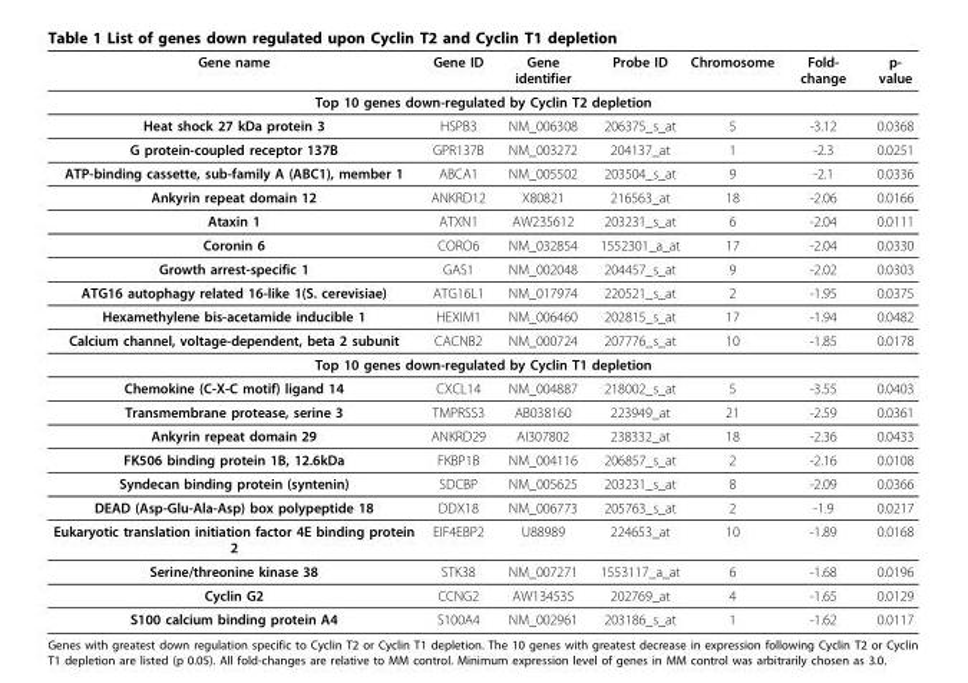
<table><thead><tr><td>Gene name</td><td>Gene ID</td><td>Gene identifier</td><td>Probe ID</td><td>Chromosome</td><td>Fold- change</td><td>p- value</td></tr></thead><tbody><tr><td colspan="7">Top 10 genes down-regulated by Cyclin T2 depletion</td></tr><tr><td>Heat shock 27 kDa protein 3</td><td>HSPB3</td><td>NM_006308</td><td>206375_s_at</td><td>5</td><td>-3.12</td><td>0.0368</td></tr><tr><td>G protein-coupled receptor 137B</td><td>GPR137B</td><td>NM_003272</td><td>204137_at</td><td>1</td><td>-2.3</td><td>0.0251</td></tr><tr><td>ATP-binding cassette, sub-family A (ABC1), member 1</td><td>ABCA1</td><td>NM_005502</td><td>203504_s_at</td><td>9</td><td>-2.1</td><td>0.0336</td></tr><tr><td>Ankyrin repeat domain 12</td><td>ANKRD12</td><td>X80821</td><td>216563_at</td><td>18</td><td>-2.06</td><td>0.0166</td></tr><tr><td>Ataxin 1</td><td>ATXN1</td><td>AW235612</td><td>203231_s_at</td><td>6</td><td>-2.04</td><td>0.0111</td></tr><tr><td>Coronin 6</td><td>CORO6</td><td>NM_032854</td><td>1552301_a_at</td><td>17</td><td>-2.04</td><td>0.0330</td></tr><tr><td>Growth arrest-specific 1</td><td>GAS1</td><td>NM_002048</td><td>204457_s_at</td><td>9</td><td>-2.02</td><td>0.0303</td></tr><tr><td>ATG16 autophagy related 16-like 1(S. cerevisiae)</td><td>ATG16L1</td><td>NM_017974</td><td>220521_s_at</td><td>2</td><td>-1.95</td><td>0.0375</td></tr><tr><td>Hexamethylene bis-acetamide inducible 1</td><td>HEXIM1</td><td>NM_006460</td><td>202815_s_at</td><td>17</td><td>-1.94</td><td>0.0482</td></tr><tr><td>Calcium channel, voltage-dependent, beta 2 subunit</td><td>CACNB2</td><td>NM_000724</td><td>207776_s_at</td><td>10</td><td>-1.85</td><td>0.0178</td></tr><tr><td colspan="7">Top 10 genes down-regulated by Cyclin T1 depletion</td></tr><tr><td>Chemokine (C-X-C motif) ligand 14</td><td>CXCL14</td><td>NM_004887</td><td>218002_s_at</td><td>5</td><td>-3.55</td><td>0.0403</td></tr><tr><td>Transmembrane protease, serine 3</td><td>TMPRSS3</td><td>AB038160</td><td>223949_at</td><td>21</td><td>-2.59</td><td>0.0361</td></tr><tr><td>Ankyrin repeat domain 29</td><td>ANKRD29</td><td>AI307802</td><td>238332_at</td><td>18</td><td>-2.36</td><td>0.0433</td></tr><tr><td>FK506 binding protein 1B, 12.6kDa</td><td>FKBP1B</td><td>NM_004116</td><td>206857_s_at</td><td>2</td><td>-2.16</td><td>0.0108</td></tr><tr><td>Syndecan binding protein (syntenin)</td><td>SDCBP</td><td>NM_005625</td><td>203231_s_at</td><td>8</td><td>-2.09</td><td>0.0366</td></tr><tr><td>DEAD (Asp-Glu-Ala-Asp) box polypeptide 18</td><td>DDX18</td><td>NM_006773</td><td>205763_s_at</td><td>2</td><td>-1.9</td><td>0.0217</td></tr><tr><td>Eukaryotic translation initiation factor 4E binding protein 2</td><td>EIF4EBP2</td><td>U88989</td><td>224653_at</td><td>10</td><td>-1.89</td><td>0.0168</td></tr><tr><td>Serine/threonine kinase 38</td><td>STK38</td><td>NM_007271</td><td>1553117_a_at</td><td>6</td><td>-1.68</td><td>0.0196</td></tr><tr><td>Cyclin G2</td><td>CCNG2</td><td>AW134535</td><td>202769_at</td><td>4</td><td>-1.65</td><td>0.0129</td></tr><tr><td>S100 calcium binding protein A4</td><td>S100A4</td><td>NM_002961</td><td>203186_s_at</td><td>1</td><td>-1.62</td><td>0.0117</td></tr></tbody></table>